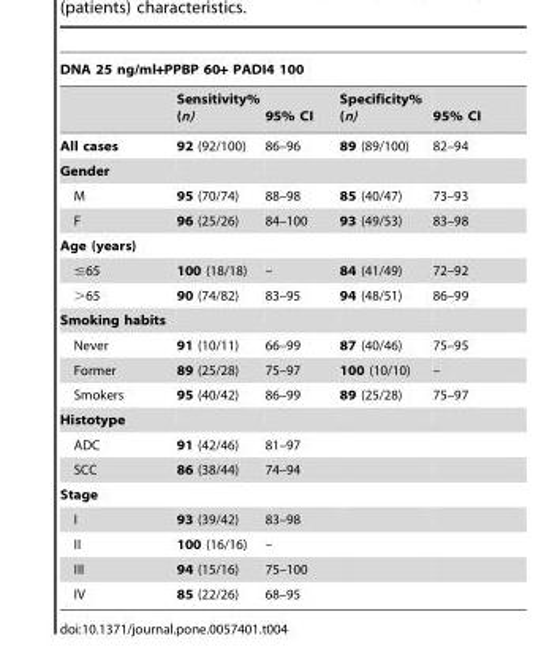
<table><thead><tr><td colspan="5">DNA 25 ng/ml+PPBP 60+ PADI4 100</td></tr><tr><td></td><td>Sensitivity% (n)</td><td>95% CI</td><td>Specificity% (n)</td><td>95% CI</td></tr></thead><tbody><tr><td>All cases</td><td>92 (92/100)</td><td>86–96</td><td>89 (89/100)</td><td>82–94</td></tr><tr><td colspan="5">Gender</td></tr><tr><td>M</td><td>95 (70/74)</td><td>88–98</td><td>85 (40/47)</td><td>73–93</td></tr><tr><td>F</td><td>96 (25/26)</td><td>84–100</td><td>93 (49/53)</td><td>83–98</td></tr><tr><td colspan="5">Age (years)</td></tr><tr><td>≤65</td><td>100 (18/18)</td><td>–</td><td>84 (41/49)</td><td>72–92</td></tr><tr><td>&gt;65</td><td>90 (74/82)</td><td>83–95</td><td>94 (48/51)</td><td>86–99</td></tr><tr><td colspan="5">Smoking habits</td></tr><tr><td>Never</td><td>91 (10/11)</td><td>66–99</td><td>87 (40/46)</td><td>75–95</td></tr><tr><td>Former</td><td>89 (25/28)</td><td>75–97</td><td>100 (10/10)</td><td>–</td></tr><tr><td>Smokers</td><td>95 (40/42)</td><td>86–99</td><td>89 (25/28)</td><td>75–97</td></tr><tr><td colspan="5">Histotype</td></tr><tr><td>ADC</td><td>91 (42/46)</td><td>81–97</td><td></td><td></td></tr><tr><td>SCC</td><td>86 (38/44)</td><td>74–94</td><td></td><td></td></tr><tr><td colspan="5">Stage</td></tr><tr><td>I</td><td>93 (39/42)</td><td>83–98</td><td></td><td></td></tr><tr><td>II</td><td>100 (16/16)</td><td>–</td><td></td><td></td></tr><tr><td>III</td><td>94 (15/16)</td><td>75–100</td><td></td><td></td></tr><tr><td>IV</td><td>85 (22/26)</td><td>68–95</td><td></td><td></td></tr></tbody></table>